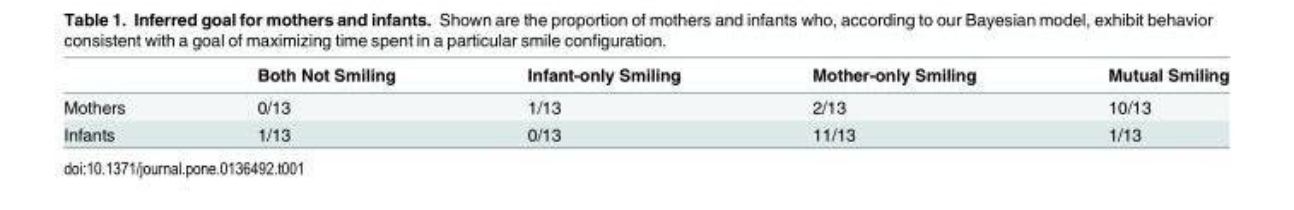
<table><thead><tr><td></td><td>Both Not Smiling</td><td>Infant-only Smiling</td><td>Mother-only Smiling</td><td>Mutual Smiling</td></tr></thead><tbody><tr><td>Mothers</td><td>0/13</td><td>1/13</td><td>2/13</td><td>10/13</td></tr><tr><td>Infants</td><td>1/13</td><td>0/13</td><td>11/13</td><td>1/13</td></tr></tbody></table>